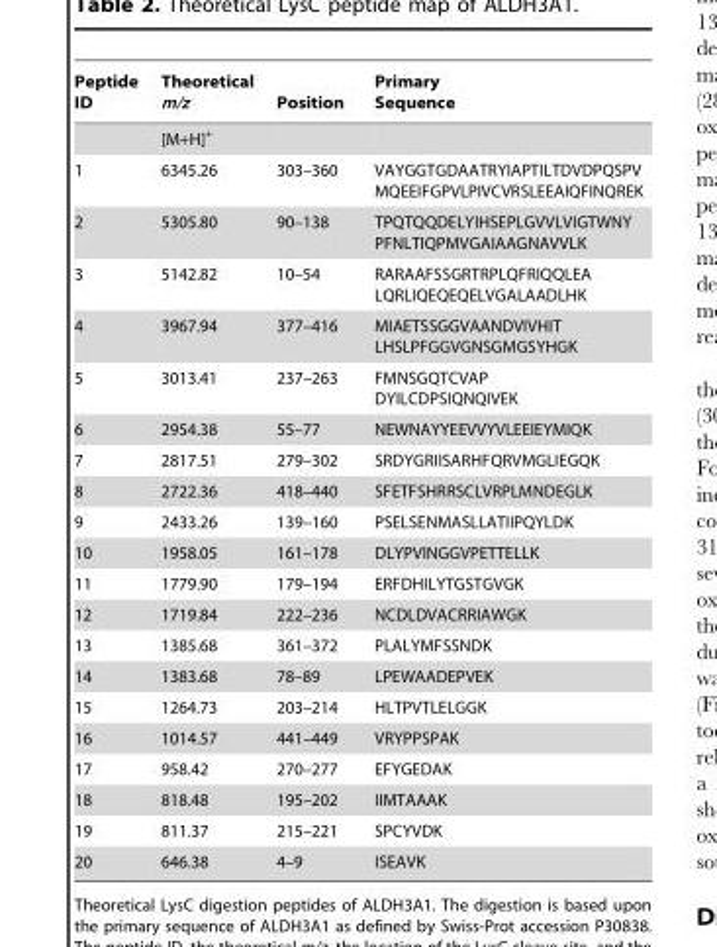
<table><thead><tr><td>Peptide ID</td><td>Theoretical m/z</td><td>Position</td><td>Primary Sequence</td></tr></thead><tbody><tr><td></td><td>[M+H]<sup>+</sup></td><td></td><td></td></tr><tr><td>1</td><td>6345.26</td><td>303–360</td><td>VAYGGTGDAATRYIAPTILTDVDPQSPV MQEEIFGPVLPIVCVRSLEEAIQFINQREK</td></tr><tr><td>2</td><td>5305.80</td><td>90–138</td><td>TPQTQQDELYIHSEPLGVVLVIGTWNY PFNLTIQPMVGAIAAGNAVVLK</td></tr><tr><td>3</td><td>5142.82</td><td>10–54</td><td>RARAAFSSGRTRPLQFRIQQLEA LQRLIQEQEQELVGALAADLHK</td></tr><tr><td>4</td><td>3967.94</td><td>377–416</td><td>MIAETSSGGVAANDVIVHIT LHSLPFGGVGNSGMGSYHGK</td></tr><tr><td>5</td><td>3013.41</td><td>237–263</td><td>FMNSGQTCVAP DYILCDPSIQNQIVEK</td></tr><tr><td>6</td><td>2954.38</td><td>55–77</td><td>NEWNAYYEEVVYVLEEIEYMIQK</td></tr><tr><td>7</td><td>2817.51</td><td>279–302</td><td>SRDYGRIISARHFQRVMGLIEGQK</td></tr><tr><td>8</td><td>2722.36</td><td>418–440</td><td>SFETFSHRRSCLVRPLMNDEGLK</td></tr><tr><td>9</td><td>2433.26</td><td>139–160</td><td>PSELSENMASLLATIIPQYLDK</td></tr><tr><td>10</td><td>1958.05</td><td>161–178</td><td>DLYPVINGGVPETTELLK</td></tr><tr><td>11</td><td>1779.90</td><td>179–194</td><td>ERFDHILYTGSTGVGK</td></tr><tr><td>12</td><td>1719.84</td><td>222–236</td><td>NCDLDVACRRIAWGK</td></tr><tr><td>13</td><td>1385.68</td><td>361–372</td><td>PLALYMFSSNDK</td></tr><tr><td>14</td><td>1383.68</td><td>78–89</td><td>LPEWAADEPVEK</td></tr><tr><td>15</td><td>1264.73</td><td>203–214</td><td>HLTPVTLELGGK</td></tr><tr><td>16</td><td>1014.57</td><td>441–449</td><td>VRYPPSPAK</td></tr><tr><td>17</td><td>958.42</td><td>270–277</td><td>EFYGEDAK</td></tr><tr><td>18</td><td>818.48</td><td>195–202</td><td>IIMTAAAK</td></tr><tr><td>19</td><td>811.37</td><td>215–221</td><td>SPCYVDK</td></tr><tr><td>20</td><td>646.38</td><td>4–9</td><td>ISEAVK</td></tr></tbody></table>